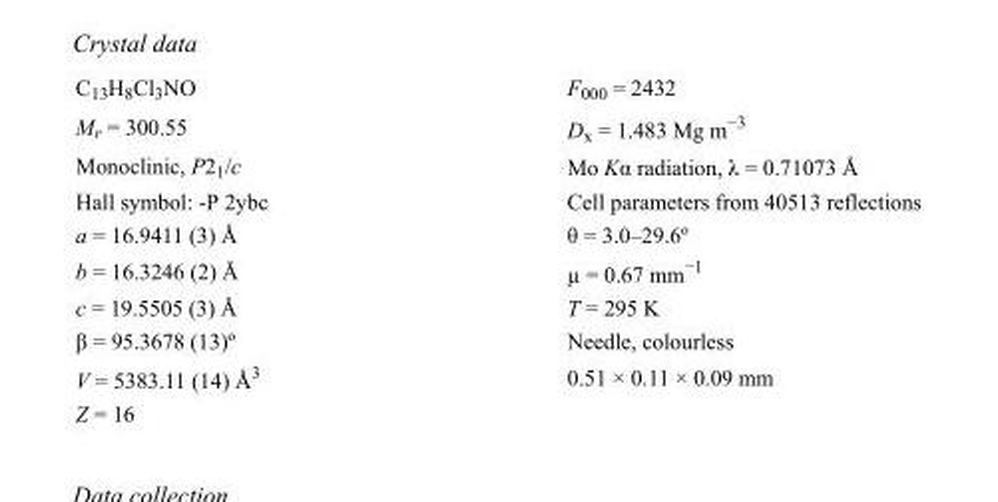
<table><tbody><tr><td>C<sub>13</sub>H<sub>8</sub>Cl<sub>3</sub>NO</td><td>F000 = 2432</td></tr><tr><td>M<sub>r</sub> = 300.55</td><td>D<sub>x</sub> = 1.483 Mg m<sup>−3</sup></td></tr><tr><td>Monoclinic, P2<sub>1</sub>/c</td><td>Mo Kα radiation, λ = 0.71073 Å</td></tr><tr><td>Hall symbol: -P 2ybc</td><td>Cell parameters from 40513 reflections</td></tr><tr><td>a = 16.9411 (3) Å</td><td>θ = 3.0–29.6º</td></tr><tr><td>b = 16.3246 (2) Å</td><td>µ = 0.67 mm<sup>−1</sup></td></tr><tr><td>c = 19.5505 (3) Å</td><td>T = 295 K</td></tr><tr><td>β = 95.3678 (13)º</td><td>Needle, colourless</td></tr><tr><td>V = 5383.11 (14) Å<sup>3</sup></td><td>0.51 × 0.11 × 0.09 mm</td></tr><tr><td>Z = 16</td><td></td></tr></tbody></table>